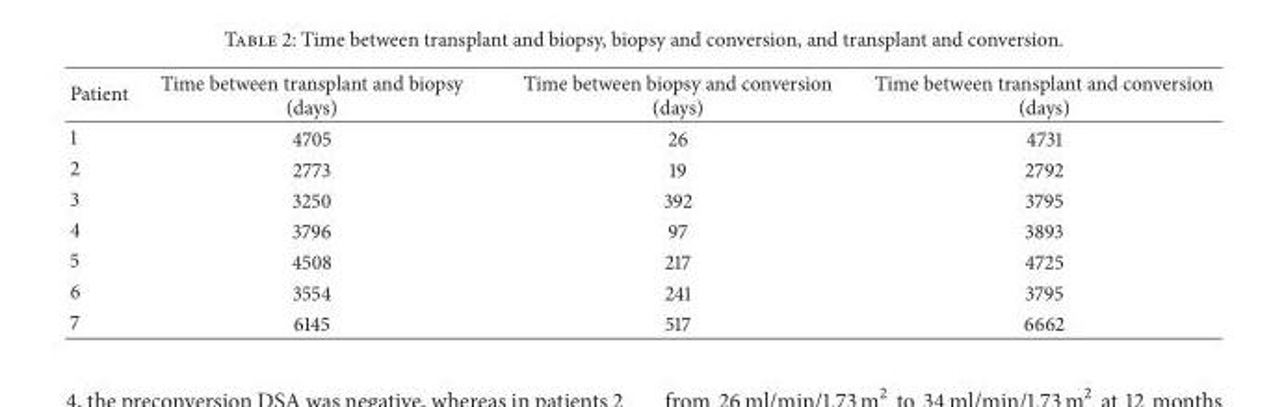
<table><thead><tr><td>Patient</td><td>Time between transplant and biopsy (days)</td><td>Time between biopsy and conversion (days)</td><td>Time between transplant and conversion (days)</td></tr></thead><tbody><tr><td>1</td><td>4705</td><td>26</td><td>4731</td></tr><tr><td>2</td><td>2773</td><td>19</td><td>2792</td></tr><tr><td>3</td><td>3250</td><td>392</td><td>3795</td></tr><tr><td>4</td><td>3796</td><td>97</td><td>3893</td></tr><tr><td>5</td><td>4508</td><td>217</td><td>4725</td></tr><tr><td>6</td><td>3554</td><td>241</td><td>3795</td></tr><tr><td>7</td><td>6145</td><td>517</td><td>6662</td></tr></tbody></table>